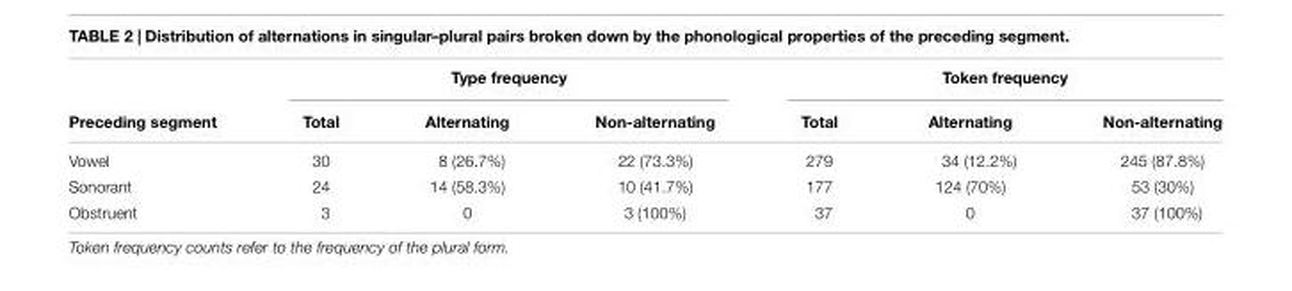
<table><thead><tr><td rowspan="2">Preceding segment</td><td colspan="3">Type frequency</td><td colspan="3">Token frequency</td></tr><tr><td>Total</td><td>Alternating</td><td>Non-alternating</td><td>Total</td><td>Alternating</td><td>Non-alternating</td></tr></thead><tbody><tr><td>Vowel</td><td>30</td><td>8 (26.7%)</td><td>22 (73.3%)</td><td>279</td><td>34 (12.2%)</td><td>245 (87.8%)</td></tr><tr><td>Sonorant</td><td>24</td><td>14 (58.3%)</td><td>10 (41.7%)</td><td>177</td><td>124 (70%)</td><td>53 (30%)</td></tr><tr><td>Obstruent</td><td>3</td><td>0</td><td>3 (100%)</td><td>37</td><td>0</td><td>37 (100%)</td></tr></tbody></table>